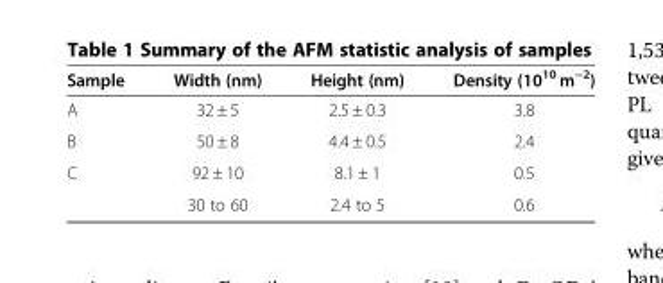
<table><thead><tr><td>Sample</td><td>Width (nm)</td><td>Height (nm)</td><td>Density (10<sup>10</sup> m<sup>−2</sup>)</td></tr></thead><tbody><tr><td>A</td><td>32 ± 5</td><td>2.5 ± 0.3</td><td>3.8</td></tr><tr><td>B</td><td>50 ± 8</td><td>4.4 ± 0.5</td><td>2.4</td></tr><tr><td rowspan="2">C</td><td>92 ± 10</td><td>8.1 ± 1</td><td>0.5</td></tr><tr><td>30 to 60</td><td>2.4 to 5</td><td>0.6</td></tr></tbody></table>